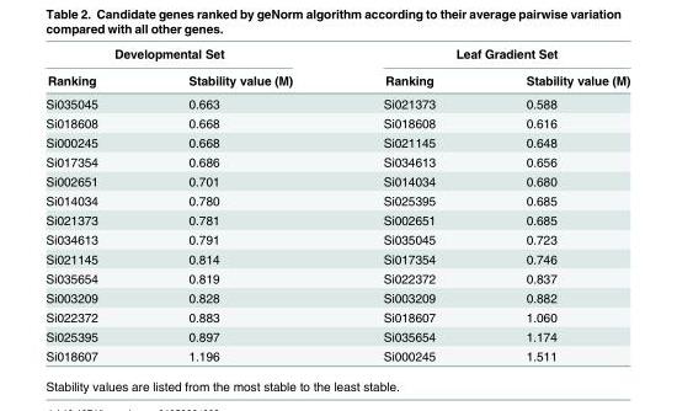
<table><thead><tr><td colspan="2">Developmental Set</td><td colspan="2">Leaf Gradient Set</td></tr><tr><td>Ranking</td><td>Stability value (M)</td><td>Ranking</td><td>Stability value (M)</td></tr></thead><tbody><tr><td>Si035045</td><td>0.663</td><td>Si021373</td><td>0.588</td></tr><tr><td>Si018608</td><td>0.668</td><td>Si018608</td><td>0.616</td></tr><tr><td>Si000245</td><td>0.668</td><td>Si021145</td><td>0.648</td></tr><tr><td>Si017354</td><td>0.686</td><td>Si034613</td><td>0.656</td></tr><tr><td>Si002651</td><td>0.701</td><td>Si014034</td><td>0.680</td></tr><tr><td>Si014034</td><td>0.780</td><td>Si025395</td><td>0.685</td></tr><tr><td>Si021373</td><td>0.781</td><td>Si002651</td><td>0.685</td></tr><tr><td>Si034613</td><td>0.791</td><td>Si035045</td><td>0.723</td></tr><tr><td>Si021145</td><td>0.814</td><td>Si017354</td><td>0.746</td></tr><tr><td>Si035654</td><td>0.819</td><td>Si022372</td><td>0.837</td></tr><tr><td>Si003209</td><td>0.828</td><td>Si003209</td><td>0.882</td></tr><tr><td>Si022372</td><td>0.883</td><td>Si018607</td><td>1.060</td></tr><tr><td>Si025395</td><td>0.897</td><td>Si035654</td><td>1.174</td></tr><tr><td>Si018607</td><td>1.196</td><td>Si000245</td><td>1.511</td></tr></tbody></table>